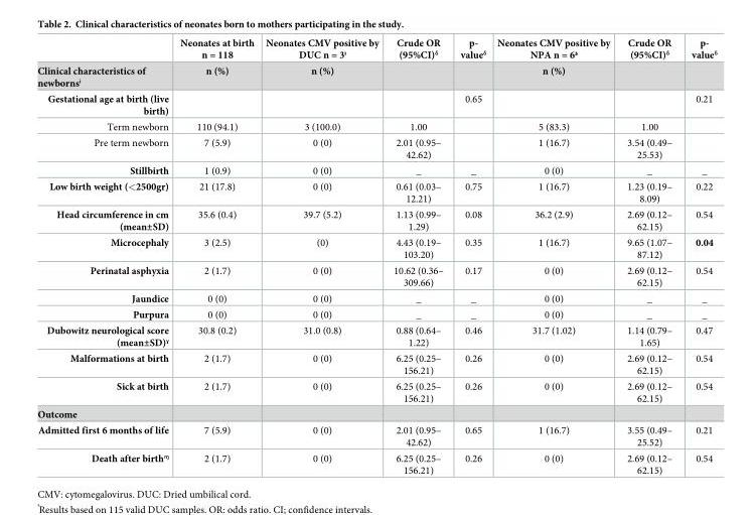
<table><thead><tr><td></td><td>Neonates at birth n = 118</td><td>Neonates CMV positive by DUC n = 3ᶧ</td><td>Crude OR (95%CI)ᵟ</td><td>p- valueᵟ</td><td>Neonates CMV positive by NPA n = 6ᶽ</td><td>Crude OR (95%CI)ᵟ</td><td>p- valueᵟ</td></tr></thead><tbody><tr><td>Clinical characteristics of newbornsᶤ</td><td>n (%)</td><td>n (%)</td><td></td><td></td><td>n (%)</td><td></td><td></td></tr><tr><td>Gestational age at birth (live birth)</td><td></td><td></td><td></td><td>0.65</td><td></td><td></td><td>0.21</td></tr><tr><td>Term newborn</td><td>110 (94.1)</td><td>3 (100.0)</td><td>1.00</td><td></td><td>5 (83.3)</td><td>1.00</td><td></td></tr><tr><td>Pre term newborn</td><td>7 (5.9)</td><td>0 (0)</td><td>2.01 (0.95– 42.62)</td><td></td><td>1 (16.7)</td><td>3.54 (0.49– 25.53)</td><td></td></tr><tr><td>Stillbirth</td><td>1 (0.9)</td><td>0 (0)</td><td>_</td><td>_</td><td>0 (0)</td><td>_</td><td>_</td></tr><tr><td>Low birth weight (&lt;2500gr)</td><td>21 (17.8)</td><td>0 (0)</td><td>0.61 (0.03– 12.21)</td><td>0.75</td><td>1 (16.7)</td><td>1.23 (0.19– 8.09)</td><td>0.22</td></tr><tr><td>Head circumference in cm (mean±SD)</td><td>35.6 (0.4)</td><td>39.7 (5.2)</td><td>1.13 (0.99– 1.29)</td><td>0.08</td><td>36.2 (2.9)</td><td>2.69 (0.12– 62.15)</td><td>0.54</td></tr><tr><td>Microcephaly</td><td>3 (2.5)</td><td>(0)</td><td>4.43 (0.19– 103.20)</td><td>0.35</td><td>1 (16.7)</td><td>9.65 (1.07– 87.12)</td><td>0.04</td></tr><tr><td>Perinatal asphyxia</td><td>2 (1.7)</td><td>0 (0)</td><td>10.62 (0.36– 309.66)</td><td>0.17</td><td>0 (0)</td><td>2.69 (0.12– 62.15)</td><td>0.54</td></tr><tr><td>Jaundice</td><td>0 (0)</td><td>0 (0)</td><td>_</td><td>_</td><td>0 (0)</td><td>_</td><td>_</td></tr><tr><td>Purpura</td><td>0 (0)</td><td>0 (0)</td><td>_</td><td>_</td><td>0 (0)</td><td>_</td><td>_</td></tr><tr><td>Dubowitz neurological score (mean±SD)ˠ</td><td>30.8 (0.2)</td><td>31.0 (0.8)</td><td>0.88 (0.64– 1.22)</td><td>0.46</td><td>31.7 (1.02)</td><td>1.14 (0.79– 1.65)</td><td>0.47</td></tr><tr><td>Malformations at birth</td><td>2 (1.7)</td><td>0 (0)</td><td>6.25 (0.25– 156.21)</td><td>0.26</td><td>0 (0)</td><td>2.69 (0.12– 62.15)</td><td>0.54</td></tr><tr><td>Sick at birth</td><td>2 (1.7)</td><td>0 (0)</td><td>6.25 (0.25– 156.21)</td><td>0.26</td><td>0 (0)</td><td>2.69 (0.12– 62.15)</td><td>0.54</td></tr><tr><td colspan="8">Outcome</td></tr><tr><td>Admitted first 6 months of life</td><td>7 (5.9)</td><td>0 (0)</td><td>2.01 (0.95– 42.62)</td><td>0.65</td><td>1 (16.7)</td><td>3.55 (0.49– 25.52)</td><td>0.21</td></tr><tr><td>Death after birthᶬ</td><td>2 (1.7)</td><td>0 (0)</td><td>6.25 (0.25– 156.21)</td><td>0.26</td><td>0 (0)</td><td>2.69 (0.12– 62.15)</td><td>0.54</td></tr></tbody></table>